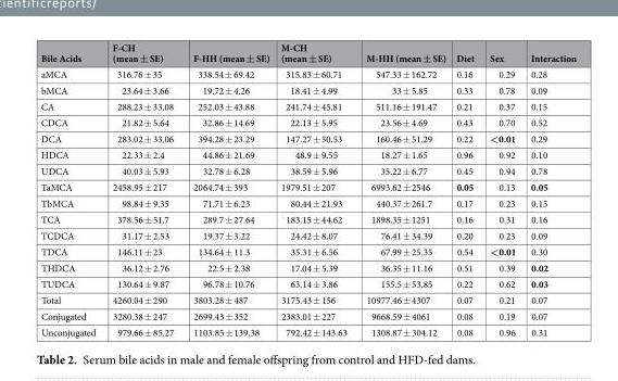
<table><thead><tr><td>Bile Acids</td><td>F-CH (mean ± SE)</td><td>F-HH (mean ± SE)</td><td>M-CH (mean ± SE)</td><td>M-HH (mean ± SE)</td><td>Diet</td><td>Sex</td><td>Interaction</td></tr></thead><tbody><tr><td>aMCA</td><td>316.76 ± 35</td><td>338.54 ± 69.42</td><td>315.83 ± 60.71</td><td>547.33 ± 162.72</td><td>0.16</td><td>0.29</td><td>0.28</td></tr><tr><td>bMCA</td><td>23.64 ± 3.66</td><td>19.72 ± 4.26</td><td>18.41 ± 4.99</td><td>33 ± 5.85</td><td>0.33</td><td>0.78</td><td>0.09</td></tr><tr><td>CA</td><td>288.23 ± 33.08</td><td>252.03 ± 43.88</td><td>241.74 ± 45.81</td><td>511.16 ± 191.47</td><td>0.21</td><td>0.37</td><td>0.15</td></tr><tr><td>CDCA</td><td>21.82 ± 5.64</td><td>32.86 ± 14.69</td><td>22.13 ± 5.95</td><td>23.56 ± 4.69</td><td>0.43</td><td>0.70</td><td>0.52</td></tr><tr><td>DCA</td><td>283.02 ± 33.06</td><td>394.28 ± 23.29</td><td>147.27 ± 50.53</td><td>160.46 ± 51.29</td><td>0.22</td><td>&lt;0.01</td><td>0.29</td></tr><tr><td>HDCA</td><td>22.33 ± 2.4</td><td>44.86 ± 21.69</td><td>48.9 ± 9.55</td><td>18.27 ± 1.65</td><td>0.96</td><td>0.92</td><td>0.10</td></tr><tr><td>UDCA</td><td>40.03 ± 5.93</td><td>32.78 ± 6.28</td><td>38.59 ± 5.96</td><td>35.22 ± 6.77</td><td>0.45</td><td>0.94</td><td>0.78</td></tr><tr><td>TaMCA</td><td>2458.95 ± 217</td><td>2064.74 ± 393</td><td>1979.51 ± 207</td><td>6993.62 ± 2546</td><td>0.05</td><td>0.13</td><td>0.05</td></tr><tr><td>TbMCA</td><td>98.84 ± 9.35</td><td>71.71 ± 6.23</td><td>80.44 ± 21.93</td><td>440.37 ± 261.7</td><td>0.17</td><td>0.23</td><td>0.15</td></tr><tr><td>TCA</td><td>378.56 ± 51.7</td><td>289.7 ± 27.64</td><td>183.15 ± 44.62</td><td>1898.35 ± 1251</td><td>0.16</td><td>0.31</td><td>0.16</td></tr><tr><td>TCDCA</td><td>31.17 ± 2.53</td><td>19.37 ± 3.22</td><td>24.42 ± 8.07</td><td>76.41 ± 34.39</td><td>0.20</td><td>0.23</td><td>0.09</td></tr><tr><td>TDCA</td><td>146.11 ± 23</td><td>134.64 ± 11.3</td><td>35.31 ± 6.56</td><td>67.99 ± 25.35</td><td>0.54</td><td>&lt;0.01</td><td>0.30</td></tr><tr><td>THDCA</td><td>36.12 ± 2.76</td><td>22.5 ± 2.38</td><td>17.04 ± 5.39</td><td>36.35 ± 11.16</td><td>0.51</td><td>0.39</td><td>0.02</td></tr><tr><td>TUDCA</td><td>130.64 ± 9.87</td><td>96.78 ± 10.76</td><td>63.14 ± 3.86</td><td>155.5 ± 53.85</td><td>0.22</td><td>0.62</td><td>0.03</td></tr><tr><td>Total</td><td>4260.04 ± 290</td><td>3803.28 ± 487</td><td>3175.43 ± 156</td><td>10977.46 ± 4307</td><td>0.07</td><td>0.21</td><td>0.07</td></tr><tr><td>Conjugated</td><td>3280.38 ± 247</td><td>2699.43 ± 352</td><td>2383.01 ± 227</td><td>9668.59 ± 4061</td><td>0.08</td><td>0.19</td><td>0.07</td></tr><tr><td>Unconjugated</td><td>979.66 ± 85.27</td><td>1103.85 ± 139.38</td><td>792.42 ± 143.63</td><td>1308.87 ± 304.12</td><td>0.08</td><td>0.96</td><td>0.31</td></tr></tbody></table>